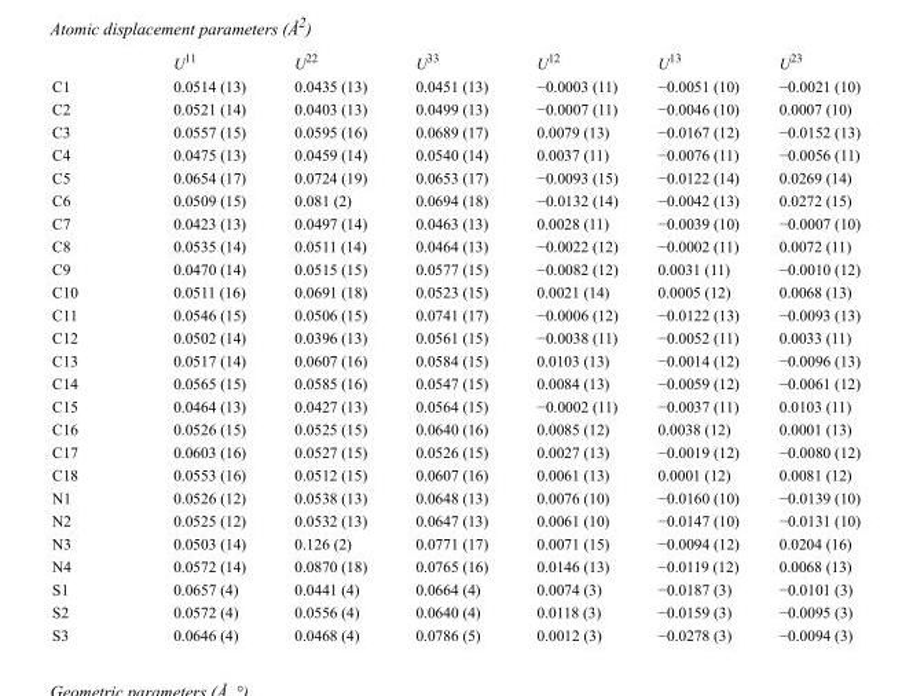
<table><thead><tr><td></td><td>U<sup>11</sup></td><td>U<sup>22</sup></td><td>U<sup>33</sup></td><td>U<sup>12</sup></td><td>U<sup>13</sup></td><td>U<sup>23</sup></td></tr></thead><tbody><tr><td>C1</td><td>0.0514 (13)</td><td>0.0435 (13)</td><td>0.0451 (13)</td><td>−0.0003 (11)</td><td>−0.0051 (10)</td><td>−0.0021 (10)</td></tr><tr><td>C2</td><td>0.0521 (14)</td><td>0.0403 (13)</td><td>0.0499 (13)</td><td>−0.0007 (11)</td><td>−0.0046 (10)</td><td>0.0007 (10)</td></tr><tr><td>C3</td><td>0.0557 (15)</td><td>0.0595 (16)</td><td>0.0689 (17)</td><td>0.0079 (13)</td><td>−0.0167 (12)</td><td>−0.0152 (13)</td></tr><tr><td>C4</td><td>0.0475 (13)</td><td>0.0459 (14)</td><td>0.0540 (14)</td><td>0.0037 (11)</td><td>−0.0076 (11)</td><td>−0.0056 (11)</td></tr><tr><td>C5</td><td>0.0654 (17)</td><td>0.0724 (19)</td><td>0.0653 (17)</td><td>−0.0093 (15)</td><td>−0.0122 (14)</td><td>0.0269 (14)</td></tr><tr><td>C6</td><td>0.0509 (15)</td><td>0.081 (2)</td><td>0.0694 (18)</td><td>−0.0132 (14)</td><td>−0.0042 (13)</td><td>0.0272 (15)</td></tr><tr><td>C7</td><td>0.0423 (13)</td><td>0.0497 (14)</td><td>0.0463 (13)</td><td>0.0028 (11)</td><td>−0.0039 (10)</td><td>−0.0007 (10)</td></tr><tr><td>C8</td><td>0.0535 (14)</td><td>0.0511 (14)</td><td>0.0464 (13)</td><td>−0.0022 (12)</td><td>−0.0002 (11)</td><td>0.0072 (11)</td></tr><tr><td>C9</td><td>0.0470 (14)</td><td>0.0515 (15)</td><td>0.0577 (15)</td><td>−0.0082 (12)</td><td>0.0031 (11)</td><td>−0.0010 (12)</td></tr><tr><td>C10</td><td>0.0511 (16)</td><td>0.0691 (18)</td><td>0.0523 (15)</td><td>0.0021 (14)</td><td>0.0005 (12)</td><td>0.0068 (13)</td></tr><tr><td>C11</td><td>0.0546 (15)</td><td>0.0506 (15)</td><td>0.0741 (17)</td><td>−0.0006 (12)</td><td>−0.0122 (13)</td><td>−0.0093 (13)</td></tr><tr><td>C12</td><td>0.0502 (14)</td><td>0.0396 (13)</td><td>0.0561 (15)</td><td>−0.0038 (11)</td><td>−0.0052 (11)</td><td>0.0033 (11)</td></tr><tr><td>C13</td><td>0.0517 (14)</td><td>0.0607 (16)</td><td>0.0584 (15)</td><td>0.0103 (13)</td><td>−0.0014 (12)</td><td>−0.0096 (13)</td></tr><tr><td>C14</td><td>0.0565 (15)</td><td>0.0585 (16)</td><td>0.0547 (15)</td><td>0.0084 (13)</td><td>−0.0059 (12)</td><td>−0.0061 (12)</td></tr><tr><td>C15</td><td>0.0464 (13)</td><td>0.0427 (13)</td><td>0.0564 (15)</td><td>−0.0002 (11)</td><td>−0.0037 (11)</td><td>0.0103 (11)</td></tr><tr><td>C16</td><td>0.0526 (15)</td><td>0.0525 (15)</td><td>0.0640 (16)</td><td>0.0085 (12)</td><td>0.0038 (12)</td><td>0.0001 (13)</td></tr><tr><td>C17</td><td>0.0603 (16)</td><td>0.0527 (15)</td><td>0.0526 (15)</td><td>0.0027 (13)</td><td>−0.0019 (12)</td><td>−0.0080 (12)</td></tr><tr><td>C18</td><td>0.0553 (16)</td><td>0.0512 (15)</td><td>0.0607 (16)</td><td>0.0061 (13)</td><td>0.0001 (12)</td><td>0.0081 (12)</td></tr><tr><td>N1</td><td>0.0526 (12)</td><td>0.0538 (13)</td><td>0.0648 (13)</td><td>0.0076 (10)</td><td>−0.0160 (10)</td><td>−0.0139 (10)</td></tr><tr><td>N2</td><td>0.0525 (12)</td><td>0.0532 (13)</td><td>0.0647 (13)</td><td>0.0061 (10)</td><td>−0.0147 (10)</td><td>−0.0131 (10)</td></tr><tr><td>N3</td><td>0.0503 (14)</td><td>0.126 (2)</td><td>0.0771 (17)</td><td>0.0071 (15)</td><td>−0.0094 (12)</td><td>0.0204 (16)</td></tr><tr><td>N4</td><td>0.0572 (14)</td><td>0.0870 (18)</td><td>0.0765 (16)</td><td>0.0146 (13)</td><td>−0.0119 (12)</td><td>0.0068 (13)</td></tr><tr><td>S1</td><td>0.0657 (4)</td><td>0.0441 (4)</td><td>0.0664 (4)</td><td>0.0074 (3)</td><td>−0.0187 (3)</td><td>−0.0101 (3)</td></tr><tr><td>S2</td><td>0.0572 (4)</td><td>0.0556 (4)</td><td>0.0640 (4)</td><td>0.0118 (3)</td><td>−0.0159 (3)</td><td>−0.0095 (3)</td></tr><tr><td>S3</td><td>0.0646 (4)</td><td>0.0468 (4)</td><td>0.0786 (5)</td><td>0.0012 (3)</td><td>−0.0278 (3)</td><td>−0.0094 (3)</td></tr></tbody></table>